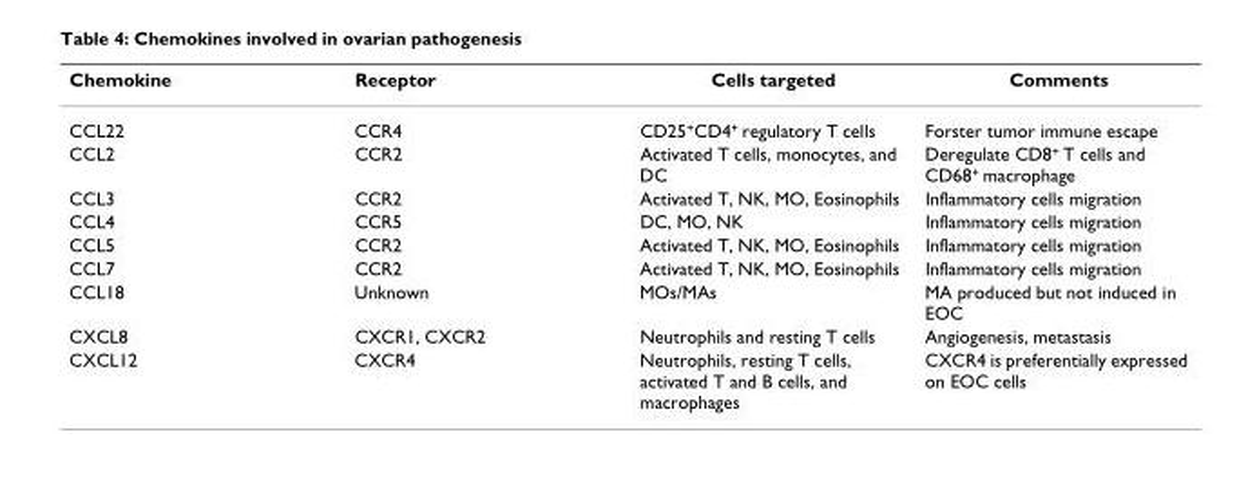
<table><thead><tr><td>Chemokine</td><td>Receptor</td><td>Cells targeted</td><td>Comments</td></tr></thead><tbody><tr><td>CCL22</td><td>CCR4</td><td>CD25<sup>+</sup>CD4<sup>+</sup> regulatory T cells</td><td>Forster tumor immune escape</td></tr><tr><td>CCL2</td><td>CCR2</td><td>Activated T cells, monocytes, and DC</td><td>Deregulate CD8<sup>+</sup> T cells and CD68<sup>+</sup> macrophage</td></tr><tr><td>CCL3</td><td>CCR2</td><td>Activated T, NK, MO, Eosinophils</td><td>Inflammatory cells migration</td></tr><tr><td>CCL4</td><td>CCR5</td><td>DC, MO, NK</td><td>Inflammatory cells migration</td></tr><tr><td>CCL5</td><td>CCR2</td><td>Activated T, NK, MO, Eosinophils</td><td>Inflammatory cells migration</td></tr><tr><td>CCL7</td><td>CCR2</td><td>Activated T, NK, MO, Eosinophils</td><td>Inflammatory cells migration</td></tr><tr><td>CCL18</td><td>Unknown</td><td>MOs/MAs</td><td>MA produced but not induced in EOC</td></tr><tr><td>CXCL8</td><td>CXCR1, CXCR2</td><td>Neutrophils and resting T cells</td><td>Angiogenesis, metastasis</td></tr><tr><td>CXCL12</td><td>CXCR4</td><td>Neutrophils, resting T cells, activated T and B cells, and macrophages</td><td>CXCR4 is preferentially expressed on EOC cells</td></tr></tbody></table>